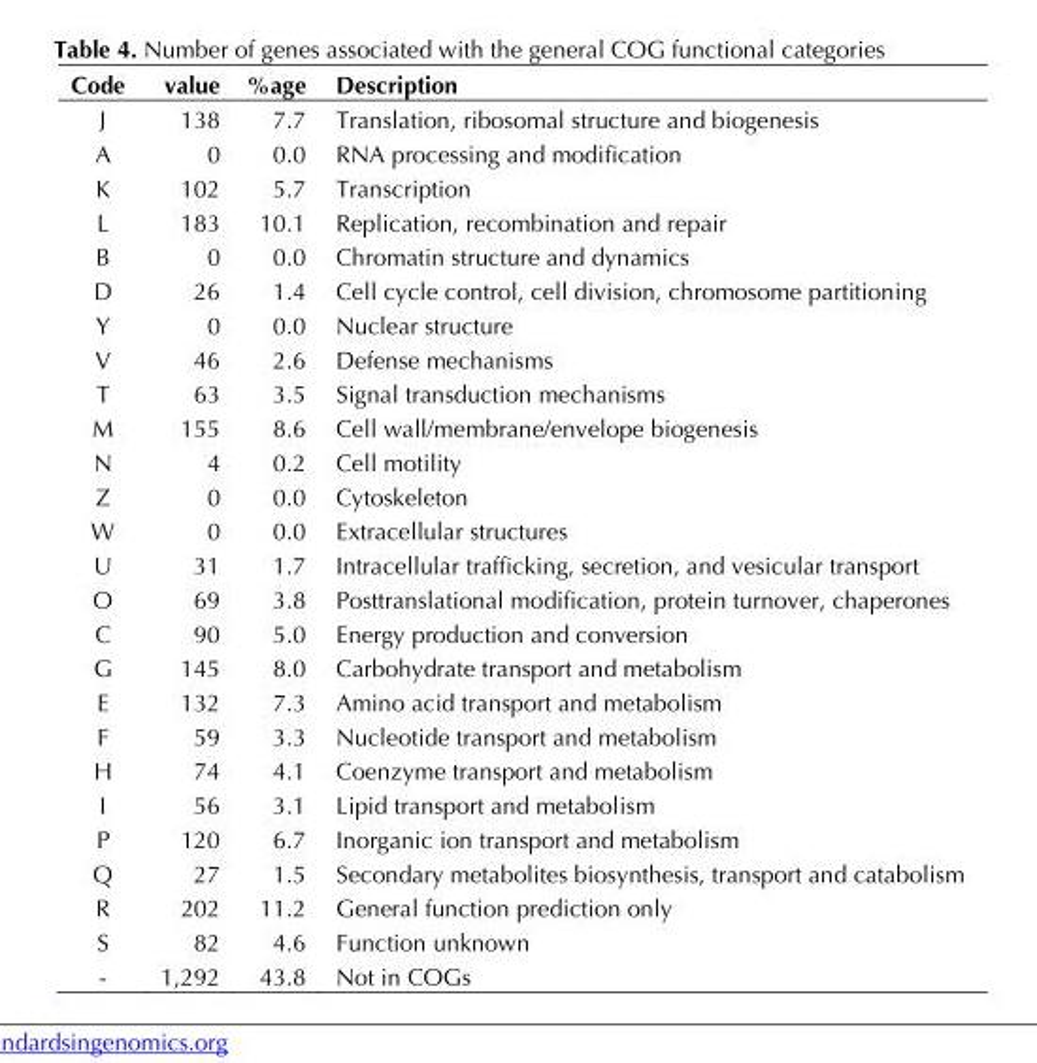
<table><thead><tr><td>Code</td><td>value</td><td>%age</td><td>Description</td></tr></thead><tbody><tr><td>J</td><td>138</td><td>7.7</td><td>Translation, ribosomal structure and biogenesis</td></tr><tr><td>A</td><td>0</td><td>0.0</td><td>RNA processing and modification</td></tr><tr><td>K</td><td>102</td><td>5.7</td><td>Transcription</td></tr><tr><td>L</td><td>183</td><td>10.1</td><td>Replication, recombination and repair</td></tr><tr><td>B</td><td>0</td><td>0.0</td><td>Chromatin structure and dynamics</td></tr><tr><td>D</td><td>26</td><td>1.4</td><td>Cell cycle control, cell division, chromosome partitioning</td></tr><tr><td>Y</td><td>0</td><td>0.0</td><td>Nuclear structure</td></tr><tr><td>V</td><td>46</td><td>2.6</td><td>Defense mechanisms</td></tr><tr><td>T</td><td>63</td><td>3.5</td><td>Signal transduction mechanisms</td></tr><tr><td>M</td><td>155</td><td>8.6</td><td>Cell wall/membrane/envelope biogenesis</td></tr><tr><td>N</td><td>4</td><td>0.2</td><td>Cell motility</td></tr><tr><td>Z</td><td>0</td><td>0.0</td><td>Cytoskeleton</td></tr><tr><td>W</td><td>0</td><td>0.0</td><td>Extracellular structures</td></tr><tr><td>U</td><td>31</td><td>1.7</td><td>Intracellular trafficking, secretion, and vesicular transport</td></tr><tr><td>O</td><td>69</td><td>3.8</td><td>Posttranslational modification, protein turnover, chaperones</td></tr><tr><td>C</td><td>90</td><td>5.0</td><td>Energy production and conversion</td></tr><tr><td>G</td><td>145</td><td>8.0</td><td>Carbohydrate transport and metabolism</td></tr><tr><td>E</td><td>132</td><td>7.3</td><td>Amino acid transport and metabolism</td></tr><tr><td>F</td><td>59</td><td>3.3</td><td>Nucleotide transport and metabolism</td></tr><tr><td>H</td><td>74</td><td>4.1</td><td>Coenzyme transport and metabolism</td></tr><tr><td>I</td><td>56</td><td>3.1</td><td>Lipid transport and metabolism</td></tr><tr><td>P</td><td>120</td><td>6.7</td><td>Inorganic ion transport and metabolism</td></tr><tr><td>Q</td><td>27</td><td>1.5</td><td>Secondary metabolites biosynthesis, transport and catabolism</td></tr><tr><td>R</td><td>202</td><td>11.2</td><td>General function prediction only</td></tr><tr><td>S</td><td>82</td><td>4.6</td><td>Function unknown</td></tr><tr><td>-</td><td>1,292</td><td>43.8</td><td>Not in COGs</td></tr></tbody></table>